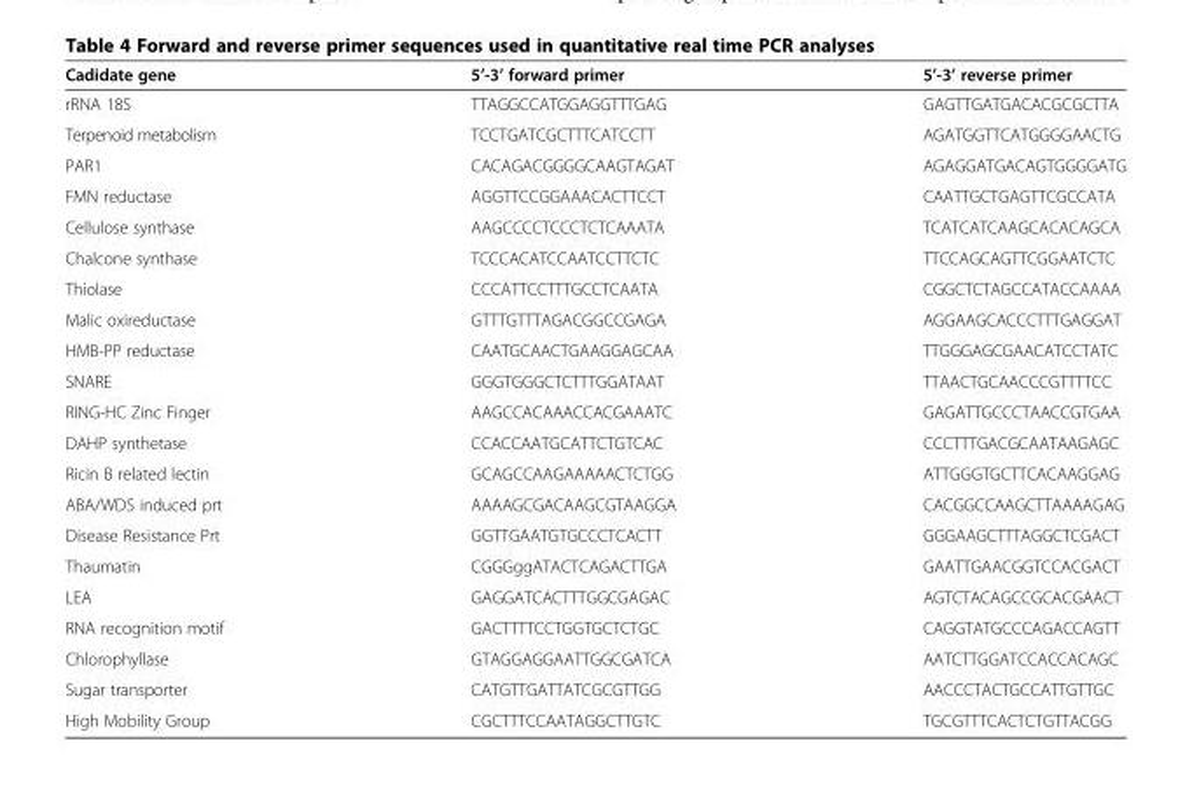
<table><thead><tr><td>Cadidate gene</td><td>5’-3’ forward primer</td><td>5’-3’ reverse primer</td></tr></thead><tbody><tr><td>rRNA 18S</td><td>TTAGGCCATGGAGGTTTGAG</td><td>GAGTTGATGACACGCGCTTA</td></tr><tr><td>Terpenoid metabolism</td><td>TCCTGATCGCTTTCATCCTT</td><td>AGATGGTTCATGGGGAACTG</td></tr><tr><td>PAR1</td><td>CACAGACGGGGCAAGTAGAT</td><td>AGAGGATGACAGTGGGGATG</td></tr><tr><td>FMN reductase</td><td>AGGTTCCGGAAACACTTCCT</td><td>CAATTGCTGAGTTCGCCATA</td></tr><tr><td>Cellulose synthase</td><td>AAGCCCCTCCCTCTCAAATA</td><td>TCATCATCAAGCACACAGCA</td></tr><tr><td>Chalcone synthase</td><td>TCCCACATCCAATCCTTCTC</td><td>TTCCAGCAGTTCGGAATCTC</td></tr><tr><td>Thiolase</td><td>CCCATTCCTTTGCCTCAATA</td><td>CGGCTCTAGCCATACCAAAA</td></tr><tr><td>Malic oxireductase</td><td>GTTTGTTTAGACGGCCGAGA</td><td>AGGAAGCACCCTTTGAGGAT</td></tr><tr><td>HMB-PP reductase</td><td>CAATGCAACTGAAGGAGCAA</td><td>TTGGGAGCGAACATCCTATC</td></tr><tr><td>SNARE</td><td>GGGTGGGCTCTTTGGATAAT</td><td>TTAACTGCAACCCGTTTTCC</td></tr><tr><td>RING-HC Zinc Finger</td><td>AAGCCACAAACCACGAAATC</td><td>GAGATTGCCCTAACCGTGAA</td></tr><tr><td>DAHP synthetase</td><td>CCACCAATGCATTCTGTCAC</td><td>CCCTTTGACGCAATAAGAGC</td></tr><tr><td>Ricin B related lectin</td><td>GCAGCCAAGAAAAACTCTGG</td><td>ATTGGGTGCTTCACAAGGAG</td></tr><tr><td>ABA/WDS induced prt</td><td>AAAAGCGACAAGCGTAAGGA</td><td>CACGGCCAAGCTTAAAAGAG</td></tr><tr><td>Disease Resistance Prt</td><td>GGTTGAATGTGCCCTCACTT</td><td>GGGAAGCTTTAGGCTCGACT</td></tr><tr><td>Thaumatin</td><td>CGGGggATACTCAGACTTGA</td><td>GAATTGAACGGTCCACGACT</td></tr><tr><td>LEA</td><td>GAGGATCACTTTGGCGAGAC</td><td>AGTCTACAGCCGCACGAACT</td></tr><tr><td>RNA recognition motif</td><td>GACTTTTCCTGGTGCTCTGC</td><td>CAGGTATGCCCAGACCAGTT</td></tr><tr><td>Chlorophyllase</td><td>GTAGGAGGAATTGGCGATCA</td><td>AATCTTGGATCCACCACAGC</td></tr><tr><td>Sugar transporter</td><td>CATGTTGATTATCGCGTTGG</td><td>AACCCTACTGCCATTGTTGC</td></tr><tr><td>High Mobility Group</td><td>CGCTTTCCAATAGGCTTGTC</td><td>TGCGTTTCACTCTGTTACGG</td></tr></tbody></table>